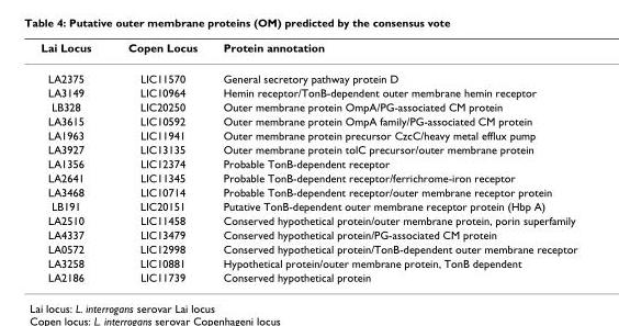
<table><thead><tr><td>Lai Locus</td><td>Copen Locus</td><td>Protein annotation</td></tr></thead><tbody><tr><td>LA2375</td><td>LIC11570</td><td>General secretory pathway protein D</td></tr><tr><td>LA3149</td><td>LIC10964</td><td>Hemin receptor/TonB-dependent outer membrane hemin receptor</td></tr><tr><td>LB328</td><td>LIC20250</td><td>Outer membrane protein OmpA/PG-associated CM protein</td></tr><tr><td>LA3615</td><td>LIC10592</td><td>Outer membrane protein OmpA family/PG-associated CM protein</td></tr><tr><td>LA1963</td><td>LIC11941</td><td>Outer membrane protein precursor CzcC/heavy metal efflux pump</td></tr><tr><td>LA3927</td><td>LIC13135</td><td>Outer membrane protein tolC precursor/outer membrane protein</td></tr><tr><td>LA1356</td><td>LIC12374</td><td>Probable TonB-dependent receptor</td></tr><tr><td>LA2641</td><td>LIC11345</td><td>Probable TonB-dependent receptor/ferrichrome-iron receptor</td></tr><tr><td>LA3468</td><td>LIC10714</td><td>Probable TonB-dependent receptor/outer membrane receptor protein</td></tr><tr><td>LB191</td><td>LIC20151</td><td>Putative TonB-dependent outer membrane receptor protein (Hbp A)</td></tr><tr><td>LA2510</td><td>LIC11458</td><td>Conserved hypothetical protein/outer membrane protein, porin superfamily</td></tr><tr><td>LA4337</td><td>LIC13479</td><td>Conserved hypothetical protein/PG-associated CM protein</td></tr><tr><td>LA0572</td><td>LIC12998</td><td>Conserved hypothetical protein/TonB-dependent outer membrane receptor</td></tr><tr><td>LA3258</td><td>LIC10881</td><td>Hypothetical protein/outer membrane protein, TonB dependent</td></tr><tr><td>LA2186</td><td>LIC11739</td><td>Conserved hypothetical protein</td></tr></tbody></table>